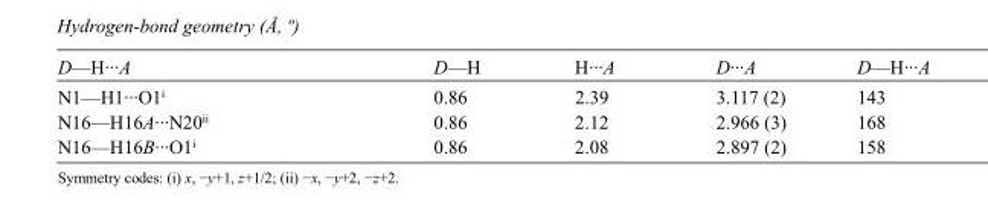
<table><tbody><tr><td>D—H···A</td><td>D—H</td><td>H···A</td><td>D···A</td><td>D—H···A</td></tr><tr><td>N1—H1···O1<sup>i</sup></td><td>0.86</td><td>2.39</td><td>3.117 (2)</td><td>143</td></tr><tr><td>N16—H16A···N20<sup>ii</sup></td><td>0.86</td><td>2.12</td><td>2.966 (3)</td><td>168</td></tr><tr><td>N16—H16B···O1<sup>i</sup></td><td>0.86</td><td>2.08</td><td>2.897 (2)</td><td>158</td></tr></tbody></table>